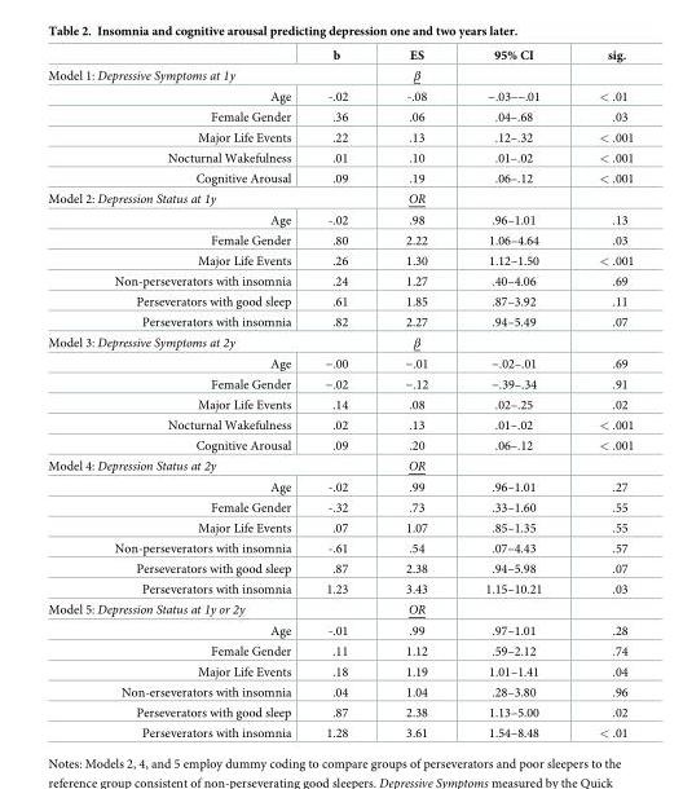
<table><thead><tr><td></td><td>b</td><td>ES</td><td>95% CI</td><td>sig.</td></tr></thead><tbody><tr><td colspan="2">Model 1: Depressive Symptoms at 1y</td><td>β</td><td></td><td></td></tr><tr><td>Age</td><td>-.02</td><td>-.08</td><td>−.03–−.01</td><td>&lt; .01</td></tr><tr><td>Female Gender</td><td>.36</td><td>.06</td><td>.04–.68</td><td>.03</td></tr><tr><td>Major Life Events</td><td>.22</td><td>.13</td><td>.12–.32</td><td>&lt; .001</td></tr><tr><td>Nocturnal Wakefulness</td><td>.01</td><td>.10</td><td>.01–.02</td><td>&lt; .001</td></tr><tr><td>Cognitive Arousal</td><td>.09</td><td>.19</td><td>.06–.12</td><td>&lt; .001</td></tr><tr><td colspan="2">Model 2: Depression Status at 1y</td><td>OR</td><td></td><td></td></tr><tr><td>Age</td><td>-.02</td><td>.98</td><td>.96–1.01</td><td>.13</td></tr><tr><td>Female Gender</td><td>.80</td><td>2.22</td><td>1.06–4.64</td><td>.03</td></tr><tr><td>Major Life Events</td><td>.26</td><td>1.30</td><td>1.12–1.50</td><td>&lt; .001</td></tr><tr><td>Non-perseverators with insomnia</td><td>.24</td><td>1.27</td><td>.40–4.06</td><td>.69</td></tr><tr><td>Perseverators with good sleep</td><td>.61</td><td>1.85</td><td>.87–3.92</td><td>.11</td></tr><tr><td>Perseverators with insomnia</td><td>.82</td><td>2.27</td><td>.94–5.49</td><td>.07</td></tr><tr><td colspan="2">Model 3: Depressive Symptoms at 2y</td><td>β</td><td></td><td></td></tr><tr><td>Age</td><td>−.00</td><td>−.01</td><td>−.02–.01</td><td>.69</td></tr><tr><td>Female Gender</td><td>−.02</td><td>−.12</td><td>−.39–.34</td><td>.91</td></tr><tr><td>Major Life Events</td><td>.14</td><td>.08</td><td>.02–.25</td><td>.02</td></tr><tr><td>Nocturnal Wakefulness</td><td>.02</td><td>.13</td><td>.01–.02</td><td>&lt; .001</td></tr><tr><td>Cognitive Arousal</td><td>.09</td><td>.20</td><td>.06–.12</td><td>&lt; .001</td></tr><tr><td colspan="2">Model 4: Depression Status at 2y</td><td>OR</td><td></td><td></td></tr><tr><td>Age</td><td>-.02</td><td>.99</td><td>.96–1.01</td><td>.27</td></tr><tr><td>Female Gender</td><td>-.32</td><td>.73</td><td>.33–1.60</td><td>.55</td></tr><tr><td>Major Life Events</td><td>.07</td><td>1.07</td><td>.85–1.35</td><td>.55</td></tr><tr><td>Non-perseverators with insomnia</td><td>-.61</td><td>.54</td><td>.07–4.43</td><td>.57</td></tr><tr><td>Perseverators with good sleep</td><td>.87</td><td>2.38</td><td>.94–5.98</td><td>.07</td></tr><tr><td>Perseverators with insomnia</td><td>1.23</td><td>3.43</td><td>1.15–10.21</td><td>.03</td></tr><tr><td>Model 5: Depression Status at 1y or 2y</td><td></td><td>OR</td><td></td><td></td></tr><tr><td>Age</td><td>-.01</td><td>.99</td><td>.97–1.01</td><td>.28</td></tr><tr><td>Female Gender</td><td>.11</td><td>1.12</td><td>.59–2.12</td><td>.74</td></tr><tr><td>Major Life Events</td><td>.18</td><td>1.19</td><td>1.01–1.41</td><td>.04</td></tr><tr><td>Non-erseverators with insomnia</td><td>.04</td><td>1.04</td><td>.28–3.80</td><td>.96</td></tr><tr><td>Perseverators with good sleep</td><td>.87</td><td>2.38</td><td>1.13–5.00</td><td>.02</td></tr><tr><td>Perseverators with insomnia</td><td>1.28</td><td>3.61</td><td>1.54–8.48</td><td>&lt; .01</td></tr></tbody></table>